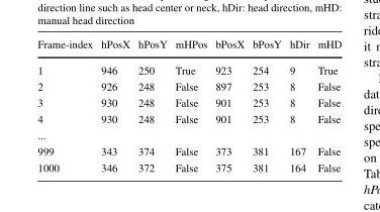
<table><thead><tr><td>Frame-index</td><td>hPosX</td><td>hPosY</td><td>mHPos</td><td>bPosX</td><td>bPosY</td><td>hDir</td><td>mHD</td></tr></thead><tbody><tr><td>1</td><td>946</td><td>250</td><td>True</td><td>923</td><td>254</td><td>9</td><td>True</td></tr><tr><td>2</td><td>926</td><td>248</td><td>False</td><td>897</td><td>253</td><td>8</td><td>False</td></tr><tr><td>3</td><td>930</td><td>248</td><td>False</td><td>901</td><td>253</td><td>8</td><td>False</td></tr><tr><td>4</td><td>930</td><td>248</td><td>False</td><td>901</td><td>253</td><td>8</td><td>False</td></tr><tr><td colspan="8">...</td></tr><tr><td>999</td><td>343</td><td>374</td><td>False</td><td>373</td><td>381</td><td>167</td><td>False</td></tr><tr><td>1000</td><td>346</td><td>372</td><td>False</td><td>375</td><td>381</td><td>164</td><td>False</td></tr></tbody></table>